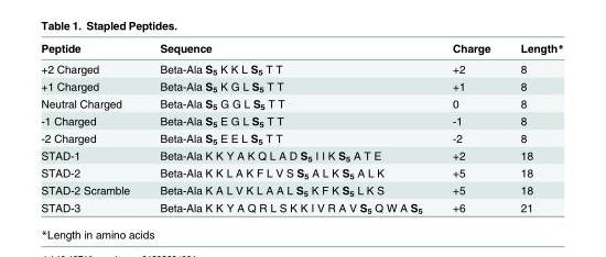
<table><thead><tr><td>Peptide</td><td>Sequence</td><td>Charge</td><td>Length*</td></tr></thead><tbody><tr><td>+2 Charged</td><td>Beta-Ala S<sub>5</sub> K K L S<sub>5</sub> T T</td><td>+2</td><td>8</td></tr><tr><td>+1 Charged</td><td>Beta-Ala S<sub>5</sub> K G L S<sub>5</sub> T T</td><td>+1</td><td>8</td></tr><tr><td>Neutral Charged</td><td>Beta-Ala S<sub>5</sub> G G L S<sub>5</sub> T T</td><td>0</td><td>8</td></tr><tr><td>-1 Charged</td><td>Beta-Ala S<sub>5</sub> E G L S<sub>5</sub> T T</td><td>-1</td><td>8</td></tr><tr><td>-2 Charged</td><td>Beta-Ala S<sub>5</sub> E E L S<sub>5</sub> T T</td><td>-2</td><td>8</td></tr><tr><td>STAD-1</td><td>Beta-Ala K K Y A K Q L A D S<sub>5</sub> I I K S<sub>5</sub> A T E</td><td>+2</td><td>18</td></tr><tr><td>STAD-2</td><td>Beta-Ala K K L A K F L V S S<sub>5</sub> A L K S<sub>5</sub> A L K</td><td>+5</td><td>18</td></tr><tr><td>STAD-2 Scramble</td><td>Beta-Ala K A L V K L A A L S<sub>5</sub> K F K S<sub>5</sub> L K S</td><td>+5</td><td>18</td></tr><tr><td>STAD-3</td><td>Beta-Ala K K Y A Q R L S K K I V R A V S<sub>5</sub> Q W A S<sub>5</sub></td><td>+6</td><td>21</td></tr></tbody></table>